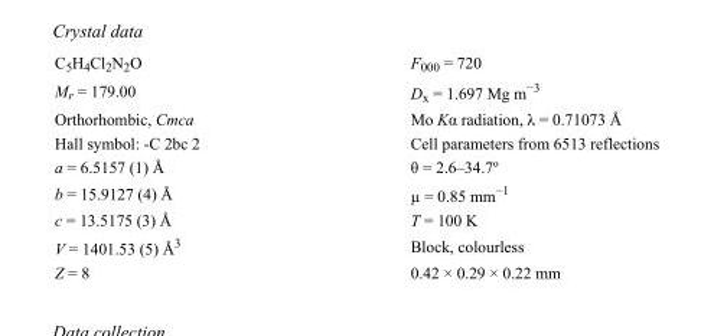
<table><tbody><tr><td>C<sub>5</sub>H<sub>4</sub>Cl<sub>2</sub>N<sub>2</sub>O</td><td>F000 = 720</td></tr><tr><td>M<sub>r</sub> = 179.00</td><td>D<sub>x</sub> = 1.697 Mg m<sup>−3</sup></td></tr><tr><td>Orthorhombic, Cmca</td><td>Mo Kα radiation, λ = 0.71073 Å</td></tr><tr><td>Hall symbol: -C 2bc 2</td><td>Cell parameters from 6513 reflections</td></tr><tr><td>a = 6.5157 (1) Å</td><td>θ = 2.6–34.7º</td></tr><tr><td>b = 15.9127 (4) Å</td><td>µ = 0.85 mm<sup>−1</sup></td></tr><tr><td>c = 13.5175 (3) Å</td><td>T = 100 K</td></tr><tr><td>V = 1401.53 (5) Å<sup>3</sup></td><td>Block, colourless</td></tr><tr><td>Z = 8</td><td>0.42 × 0.29 × 0.22 mm</td></tr></tbody></table>